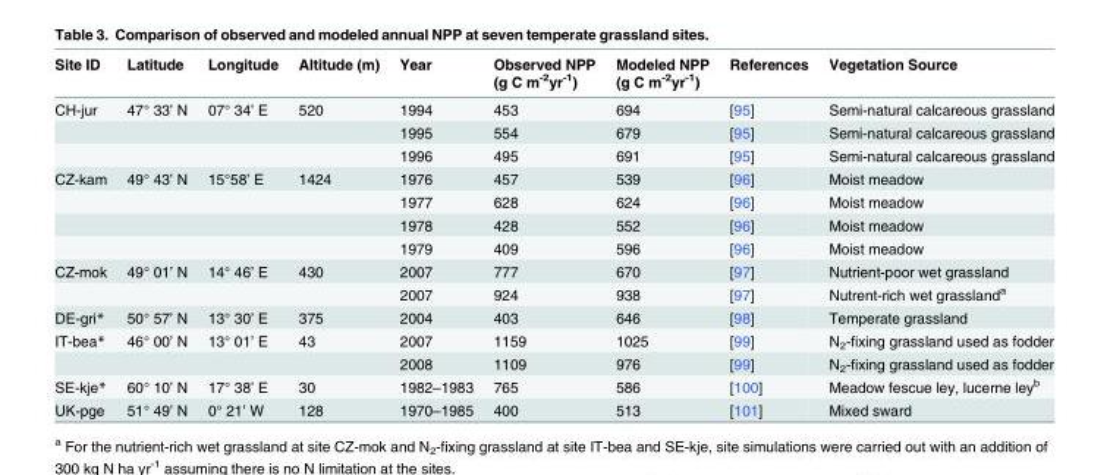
<table><thead><tr><td>Site ID</td><td>Latitude</td><td>Longitude</td><td>Altitude (m)</td><td>Year</td><td>Observed NPP (g C m<sup>-2</sup>yr<sup>-1</sup>)</td><td>Modeled NPP (g C m<sup>-2</sup>yr<sup>-1</sup>)</td><td>References</td><td>Vegetation Source</td></tr></thead><tbody><tr><td rowspan="3">CH-jur</td><td>47° 33’ N</td><td>07° 34’ E</td><td>520</td><td>1994</td><td>453</td><td>694</td><td>[95]</td><td>Semi-natural calcareous grassland</td></tr><tr><td></td><td></td><td></td><td>1995</td><td>554</td><td>679</td><td>[95]</td><td>Semi-natural calcareous grassland</td></tr><tr><td></td><td></td><td></td><td>1996</td><td>495</td><td>691</td><td>[95]</td><td>Semi-natural calcareous grassland</td></tr><tr><td rowspan="4">CZ-kam</td><td>49° 43’ N</td><td>15°58’ E</td><td>1424</td><td>1976</td><td>457</td><td>539</td><td>[96]</td><td>Moist meadow</td></tr><tr><td></td><td></td><td></td><td>1977</td><td>628</td><td>624</td><td>[96]</td><td>Moist meadow</td></tr><tr><td></td><td></td><td></td><td>1978</td><td>428</td><td>552</td><td>[96]</td><td>Moist meadow</td></tr><tr><td></td><td></td><td></td><td>1979</td><td>409</td><td>596</td><td>[96]</td><td>Moist meadow</td></tr><tr><td rowspan="2">CZ-mok</td><td>49° 01’ N</td><td>14° 46’ E</td><td>430</td><td>2007</td><td>777</td><td>670</td><td>[97]</td><td>Nutrient-poor wet grassland</td></tr><tr><td></td><td></td><td></td><td>2007</td><td>924</td><td>938</td><td>[97]</td><td>Nutrent-rich wet grassland<sup>a</sup></td></tr><tr><td>DE-gri*</td><td>50° 57’ N</td><td>13° 30’ E</td><td>375</td><td>2004</td><td>403</td><td>646</td><td>[98]</td><td>Temperate grassland</td></tr><tr><td rowspan="2">IT-bea*</td><td>46° 00’ N</td><td>13° 01’ E</td><td>43</td><td>2007</td><td>1159</td><td>1025</td><td>[99]</td><td>N<sub>2</sub>-fixing grassland used as fodder</td></tr><tr><td></td><td></td><td></td><td>2008</td><td>1109</td><td>976</td><td>[99]</td><td>N<sub>2</sub>-fixing grassland used as fodder</td></tr><tr><td>SE-kje*</td><td>60° 10’ N</td><td>17° 38’ E</td><td>30</td><td>1982–1983</td><td>765</td><td>586</td><td>[100]</td><td>Meadow fescue ley, lucerne ley<sup>b</sup></td></tr><tr><td>UK-pge</td><td>51° 49’ N</td><td>0° 21’ W</td><td>128</td><td>1970–1985</td><td>400</td><td>513</td><td>[101]</td><td>Mixed sward</td></tr></tbody></table>